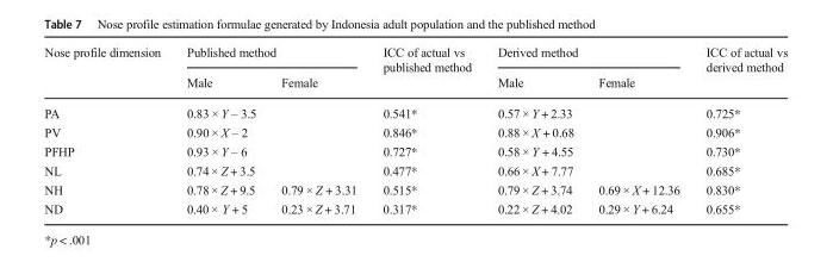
<table><thead><tr><td rowspan="2">Nose profile dimension</td><td colspan="2">Published method</td><td rowspan="2">ICC of actual vs published method</td><td colspan="2">Derived method</td><td rowspan="2">ICC of actual vs derived method</td></tr><tr><td>Male</td><td>Female</td><td>Male</td><td>Female</td></tr></thead><tbody><tr><td>PA</td><td colspan="2">0.83 × Y – 3.5</td><td>0.541*</td><td colspan="2">0.57 × Y + 2.33</td><td>0.725*</td></tr><tr><td>PV</td><td colspan="2">0.90 × X – 2</td><td>0.846*</td><td colspan="2">0.88 × X + 0.68</td><td>0.906*</td></tr><tr><td>PFHP</td><td colspan="2">0.93 × Y – 6</td><td>0.727*</td><td colspan="2">0.58 × Y + 4.55</td><td>0.730*</td></tr><tr><td>NL</td><td colspan="2">0.74 × Z + 3.5</td><td>0.477*</td><td colspan="2">0.66 × X + 7.77</td><td>0.685*</td></tr><tr><td>NH</td><td>0.78 × Z + 9.5</td><td>0.79 × Z + 3.31</td><td>0.515*</td><td>0.79 × Z + 3.74</td><td>0.69 × X + 12.36</td><td>0.830*</td></tr><tr><td>ND</td><td>0.40 × Y + 5</td><td>0.23 × Z + 3.71</td><td>0.317*</td><td>0.22 × Z + 4.02</td><td>0.29 × Y + 6.24</td><td>0.655*</td></tr></tbody></table>